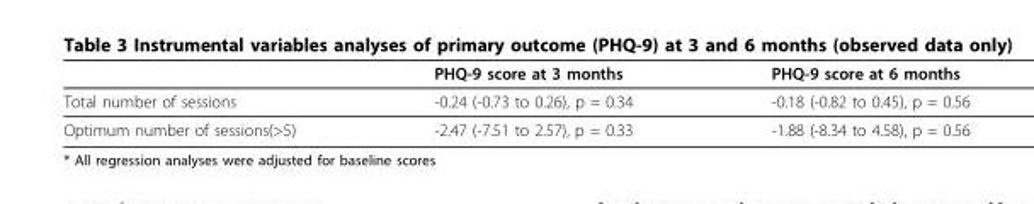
<table><thead><tr><td></td><td>PHQ-9 score at 3 months</td><td>PHQ-9 score at 6 months</td></tr></thead><tbody><tr><td>Total number of sessions</td><td>-0.24 (-0.73 to 0.26), p = 0.34</td><td>-0.18 (-0.82 to 0.45), p = 0.56</td></tr><tr><td>Optimum number of sessions(&gt;5)</td><td>-2.47 (-7.51 to 2.57), p = 0.33</td><td>-1.88 (-8.34 to 4.58), p = 0.56</td></tr></tbody></table>